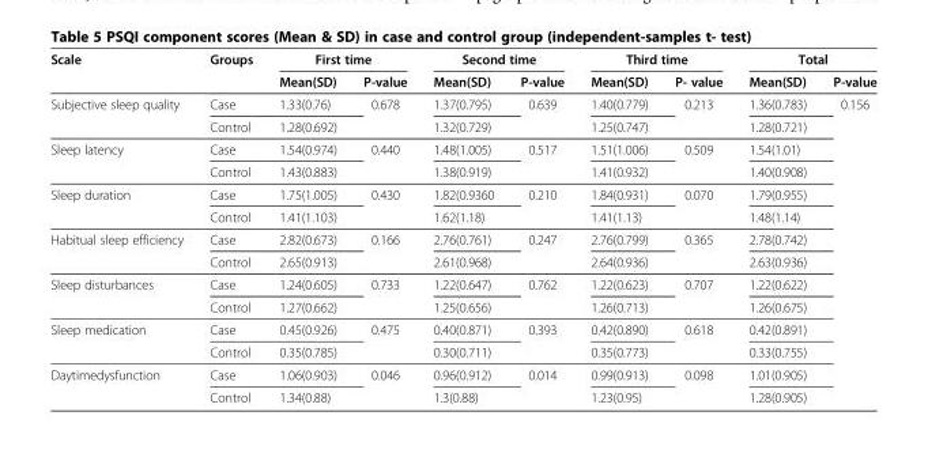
<table><thead><tr><td rowspan="2">Scale</td><td rowspan="2">Groups</td><td colspan="2">First time</td><td colspan="2">Second time</td><td colspan="2">Third time</td><td colspan="2">Total</td></tr><tr><td>Mean(SD)</td><td>P-value</td><td>Mean(SD)</td><td>P-value</td><td>Mean(SD)</td><td>P- value</td><td>Mean(SD)</td><td>P-value</td></tr></thead><tbody><tr><td rowspan="2">Subjective sleep quality</td><td>Case</td><td>1.33(0.76)</td><td>0.678</td><td>1.37(0.795)</td><td>0.639</td><td>1.40(0.779)</td><td>0.213</td><td>1.36(0.783)</td><td>0.156</td></tr><tr><td>Control</td><td>1.28(0.692)</td><td></td><td>1.32(0.729)</td><td></td><td>1.25(0.747)</td><td></td><td>1.28(0.721)</td><td></td></tr><tr><td rowspan="2">Sleep latency</td><td>Case</td><td>1.54(0.974)</td><td>0.440</td><td>1.48(1.005)</td><td>0.517</td><td>1.51(1.006)</td><td>0.509</td><td>1.54(1.01)</td><td></td></tr><tr><td>Control</td><td>1.43(0.883)</td><td></td><td>1.38(0.919)</td><td></td><td>1.41(0.932)</td><td></td><td>1.40(0.908)</td><td></td></tr><tr><td rowspan="2">Sleep duration</td><td>Case</td><td>1.75(1.005)</td><td>0.430</td><td>1.82(0.9360</td><td>0.210</td><td>1.84(0.931)</td><td>0.070</td><td>1.79(0.955)</td><td></td></tr><tr><td>Control</td><td>1.41(1.103)</td><td></td><td>1.62(1.18)</td><td></td><td>1.41(1.13)</td><td></td><td>1.48(1.14)</td><td></td></tr><tr><td rowspan="2">Habitual sleep efficiency</td><td>Case</td><td>2.82(0.673)</td><td>0.166</td><td>2.76(0.761)</td><td>0.247</td><td>2.76(0.799)</td><td>0.365</td><td>2.78(0.742)</td><td></td></tr><tr><td>Control</td><td>2.65(0.913)</td><td></td><td>2.61(0.968)</td><td></td><td>2.64(0.936)</td><td></td><td>2.63(0.936)</td><td></td></tr><tr><td rowspan="2">Sleep disturbances</td><td>Case</td><td>1.24(0.605)</td><td>0.733</td><td>1.22(0.647)</td><td>0.762</td><td>1.22(0.623)</td><td>0.707</td><td>1.22(0.622)</td><td></td></tr><tr><td>Control</td><td>1.27(0.662)</td><td></td><td>1.25(0.656)</td><td></td><td>1.26(0.713)</td><td></td><td>1.26(0.675)</td><td></td></tr><tr><td rowspan="2">Sleep medication</td><td>Case</td><td>0.45(0.926)</td><td>0.475</td><td>0.40(0.871)</td><td>0.393</td><td>0.42(0.890)</td><td>0.618</td><td>0.42(0.891)</td><td></td></tr><tr><td>Control</td><td>0.35(0.785)</td><td></td><td>0.30(0.711)</td><td></td><td>0.35(0.773)</td><td></td><td>0.33(0.755)</td><td></td></tr><tr><td rowspan="2">Daytimedysfunction</td><td>Case</td><td>1.06(0.903)</td><td>0.046</td><td>0.96(0.912)</td><td>0.014</td><td>0.99(0.913)</td><td>0.098</td><td>1.01(0.905)</td><td></td></tr><tr><td>Control</td><td>1.34(0.88)</td><td></td><td>1.3(0.88)</td><td></td><td>1.23(0.95)</td><td></td><td>1.28(0.905)</td><td></td></tr></tbody></table>